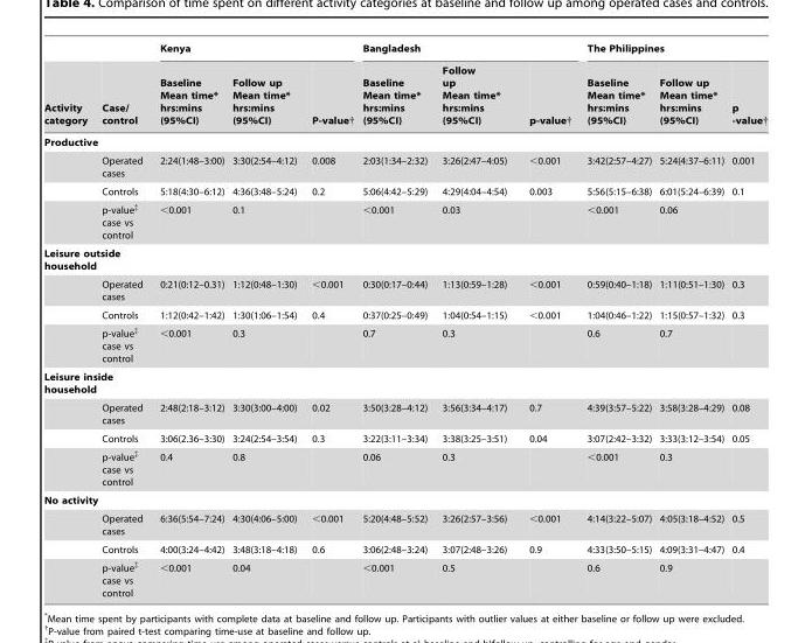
<table><thead><tr><td rowspan="2">Activity category</td><td rowspan="2">Case/ control</td><td colspan="3">Kenya</td><td colspan="3">Bangladesh</td><td colspan="3">The Philippines</td></tr><tr><td>Baseline Mean time* hrs:mins (95%CI)</td><td>Follow up Mean time* hrs:mins (95%CI)</td><td>P-value†</td><td>Baseline Mean time* hrs:mins (95%CI)</td><td>Follow up Mean time* hrs:mins (95%CI)</td><td>p-value†</td><td>Baseline Mean time* hrs:mins (95%CI)</td><td>Follow up Mean time* hrs:mins (95%CI)</td><td>p -value†</td></tr></thead><tbody><tr><td colspan="11">Productive</td></tr><tr><td></td><td>Operated cases</td><td>2:24(1:48–3:00)</td><td>3:30(2:54–4:12)</td><td>0.008</td><td>2:03(1:34–2:32)</td><td>3:26(2:47–4:05)</td><td>&lt;0.001</td><td>3:42(2:57–4:27)</td><td>5:24(4:37–6:11)</td><td>0.001</td></tr><tr><td></td><td>Controls</td><td>5:18(4:30–6:12)</td><td>4:36(3:48–5:24)</td><td>0.2</td><td>5:06(4:42–5:29)</td><td>4:29(4:04–4:54)</td><td>0.003</td><td>5:56(5:15–6:38)</td><td>6:01(5:24–6:39)</td><td>0.1</td></tr><tr><td></td><td>p-value‡ case vs control</td><td>&lt;0.001</td><td>0.1</td><td></td><td>&lt;0.001</td><td>0.03</td><td></td><td>&lt;0.001</td><td>0.06</td><td></td></tr><tr><td colspan="11">Leisure outside household</td></tr><tr><td></td><td>Operated cases</td><td>0:21(0:12–0.31)</td><td>1:12(0:48–1:30)</td><td>&lt;0.001</td><td>0:30(0:17–0:44)</td><td>1:13(0:59–1:28)</td><td>&lt;0.001</td><td>0:59(0:40–1:18)</td><td>1:11(0:51–1:30)</td><td>0.3</td></tr><tr><td></td><td>Controls</td><td>1:12(0:42–1:42)</td><td>1:30(1:06–1:54)</td><td>0.4</td><td>0:37(0:25–0:49)</td><td>1:04(0:54–1:15)</td><td>&lt;0.001</td><td>1:04(0:46–1:22)</td><td>1:15(0:57–1:32)</td><td>0.3</td></tr><tr><td></td><td>p-value‡ case vs control</td><td>&lt;0.001</td><td>0.3</td><td></td><td>0.7</td><td>0.3</td><td></td><td>0.6</td><td>0.7</td><td></td></tr><tr><td colspan="11">Leisure inside household</td></tr><tr><td></td><td>Operated cases</td><td>2:48(2:18–3:12)</td><td>3:30(3:00–4:00)</td><td>0.02</td><td>3:50(3:28–4:12)</td><td>3:56(3:34–4:17)</td><td>0.7</td><td>4:39(3:57–5:22)</td><td>3:58(3:28–4:29)</td><td>0.08</td></tr><tr><td></td><td>Controls</td><td>3:06(2.36–3:30)</td><td>3:24(2:54–3:54)</td><td>0.3</td><td>3:22(3:11–3:34)</td><td>3:38(3:25–3:51)</td><td>0.04</td><td>3:07(2:42–3:32)</td><td>3:33(3:12–3:54)</td><td>0.05</td></tr><tr><td></td><td>p-value‡ case vs control</td><td>0.4</td><td>0.8</td><td></td><td>0.06</td><td>0.3</td><td></td><td>&lt;0.001</td><td>0.3</td><td></td></tr><tr><td colspan="11">No activity</td></tr><tr><td></td><td>Operated cases</td><td>6:36(5:54–7:24)</td><td>4:30(4:06–5:00)</td><td>&lt;0.001</td><td>5:20(4:48–5:52)</td><td>3:26(2:57–3:56)</td><td>&lt;0.001</td><td>4:14(3:22–5:07)</td><td>4:05(3:18–4:52)</td><td>0.5</td></tr><tr><td></td><td>Controls</td><td>4:00(3:24–4:42)</td><td>3:48(3:18–4:18)</td><td>0.6</td><td>3:06(2:48–3:24)</td><td>3:07(2:48–3:26)</td><td>0.9</td><td>4:33(3:50–5:15)</td><td>4:09(3:31–4:47)</td><td>0.4</td></tr><tr><td></td><td>p-value‡ case vs control</td><td>&lt;0.001</td><td>0.04</td><td></td><td>&lt;0.001</td><td>0.5</td><td></td><td>0.6</td><td>0.9</td><td></td></tr></tbody></table>